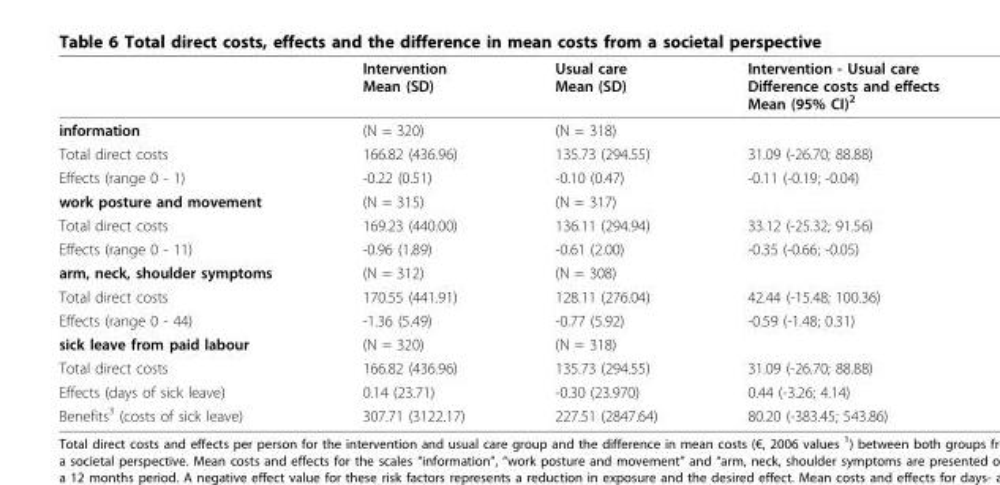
<table><thead><tr><td></td><td>Intervention Mean (SD)</td><td>Usual care Mean (SD)</td><td>Intervention - Usual care Difference costs and effects Mean (95% CI)<sup>2</sup></td></tr></thead><tbody><tr><td>information</td><td>(N = 320)</td><td>(N = 318)</td><td></td></tr><tr><td>Total direct costs</td><td>166.82 (436.96)</td><td>135.73 (294.55)</td><td>31.09 (-26.70; 88.88)</td></tr><tr><td>Effects (range 0 - 1)</td><td>-0.22 (0.51)</td><td>-0.10 (0.47)</td><td>-0.11 (-0.19; -0.04)</td></tr><tr><td>work posture and movement</td><td>(N = 315)</td><td>(N = 317)</td><td></td></tr><tr><td>Total direct costs</td><td>169.23 (440.00)</td><td>136.11 (294.94)</td><td>33.12 (-25.32; 91.56)</td></tr><tr><td>Effects (range 0 - 11)</td><td>-0.96 (1.89)</td><td>-0.61 (2.00)</td><td>-0.35 (-0.66; -0.05)</td></tr><tr><td>arm, neck, shoulder symptoms</td><td>(N = 312)</td><td>(N = 308)</td><td></td></tr><tr><td>Total direct costs</td><td>170.55 (441.91)</td><td>128.11 (276.04)</td><td>42.44 (-15.48; 100.36)</td></tr><tr><td>Effects (range 0 - 44)</td><td>-1.36 (5.49)</td><td>-0.77 (5.92)</td><td>-0.59 (-1.48; 0.31)</td></tr><tr><td>sick leave from paid labour</td><td>(N = 320)</td><td>(N = 318)</td><td></td></tr><tr><td>Total direct costs</td><td>166.82 (436.96)</td><td>135.73 (294.55)</td><td>31.09 (-26.70; 88.88)</td></tr><tr><td>Effects (days of sick leave)</td><td>0.14 (23.71)</td><td>-0.30 (23.970)</td><td>0.44 (-3.26; 4.14)</td></tr><tr><td>Benefits<sup>3</sup> (costs of sick leave)</td><td>307.71 (3122.17)</td><td>227.51 (2847.64)</td><td>80.20 (-383.45; 543.86)</td></tr></tbody></table>